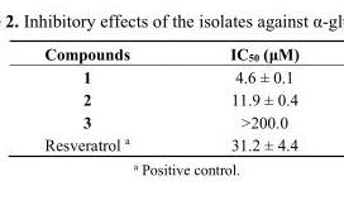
<table><thead><tr><td>Compounds</td><td>IC<sub>50</sub> (μM)</td></tr></thead><tbody><tr><td>1</td><td>4.6 ± 0.1</td></tr><tr><td>2</td><td>11.9 ± 0.4</td></tr><tr><td>3</td><td>&gt;200.0</td></tr><tr><td>Resveratrol <sup>a</sup></td><td>31.2 ± 4.4</td></tr></tbody></table>